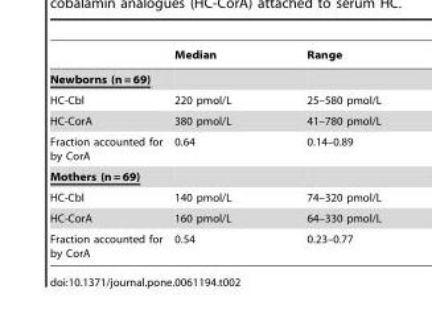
<table><thead><tr><td></td><td>Median</td><td>Range</td></tr></thead><tbody><tr><td colspan="3">Newborns (n = 69)</td></tr><tr><td>HC-Cbl</td><td>220 pmol/L</td><td>25–580 pmol/L</td></tr><tr><td>HC-CorA</td><td>380 pmol/L</td><td>41–780 pmol/L</td></tr><tr><td>Fraction accounted for by CorA</td><td>0.64</td><td>0.14–0.89</td></tr><tr><td colspan="3">Mothers (n = 69)</td></tr><tr><td>HC-Cbl</td><td>140 pmol/L</td><td>74–320 pmol/L</td></tr><tr><td>HC-CorA</td><td>160 pmol/L</td><td>64–330 pmol/L</td></tr><tr><td>Fraction accounted for by CorA</td><td>0.54</td><td>0.23–0.77</td></tr></tbody></table>